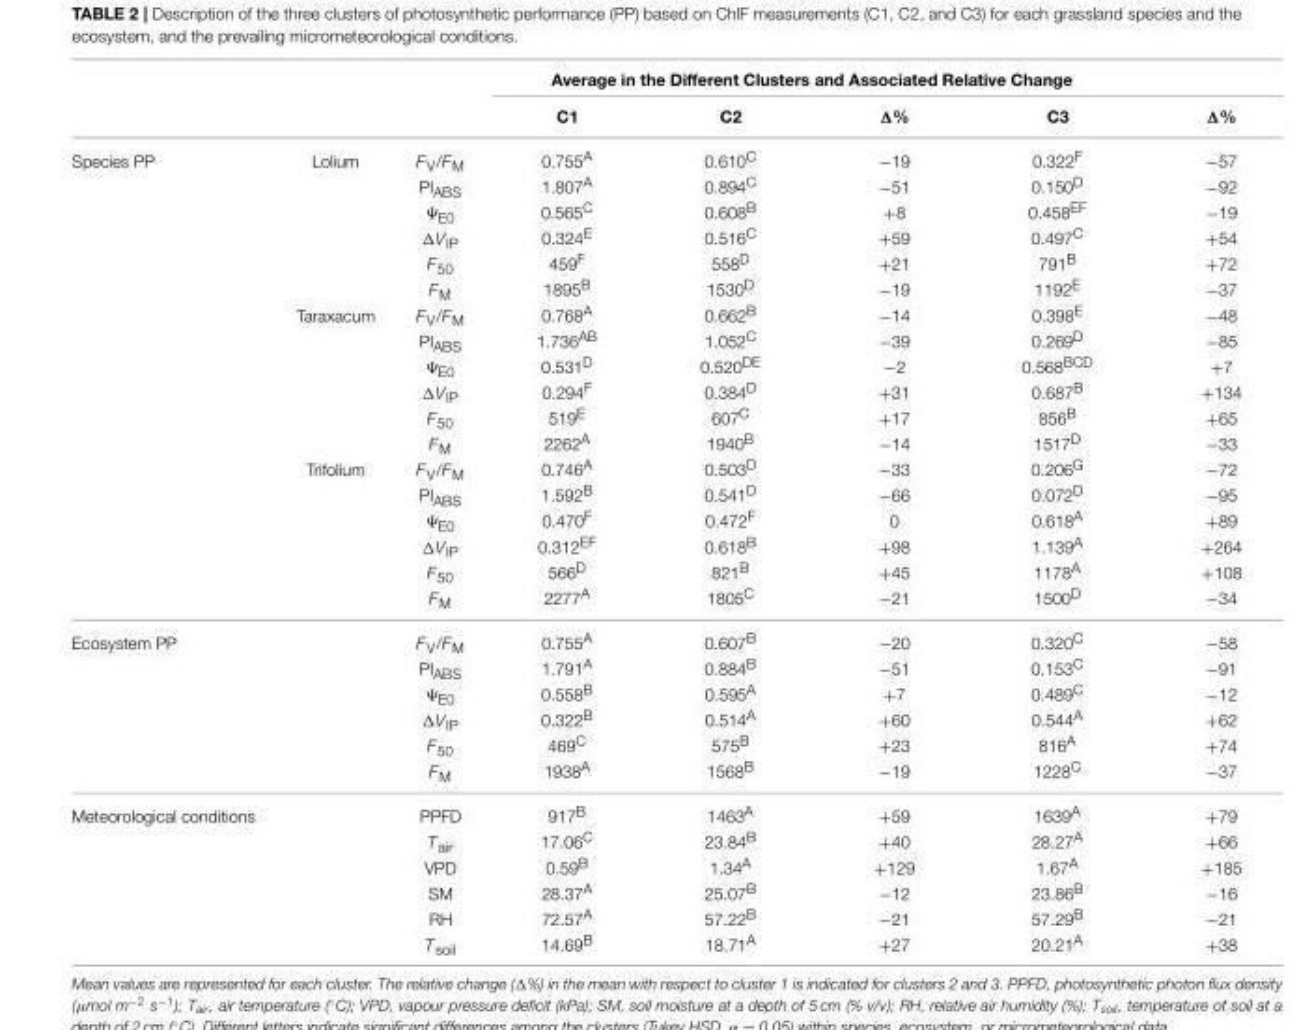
<table><thead><tr><td rowspan="2"></td><td rowspan="2"></td><td rowspan="2"></td><td colspan="4">Average in the Different Clusters and Associated Relative Change</td><td rowspan="2">Δ%</td></tr><tr><td>C1</td><td>C2</td><td>Δ%</td><td>C3</td></tr></thead><tbody><tr><td rowspan="18">Species PP</td><td>Lolium</td><td>F<sub>V</sub>/F<sub>M</sub></td><td>0.755<sup>A</sup></td><td>0.610<sup>C</sup></td><td>−19</td><td>0.322<sup>F</sup></td><td>−57</td></tr><tr><td></td><td>PI<sub>ABS</sub></td><td>1.807<sup>A</sup></td><td>0.894<sup>C</sup></td><td>−51</td><td>0.150<sup>D</sup></td><td>−92</td></tr><tr><td></td><td>Ψ<sub>E0</sub></td><td>0.565<sup>C</sup></td><td>0.608<sup>B</sup></td><td>+8</td><td>0.458<sup>EF</sup></td><td>−19</td></tr><tr><td></td><td>ΔV<sub>IP</sub></td><td>0.324<sup>E</sup></td><td>0.516<sup>C</sup></td><td>+59</td><td>0.497<sup>C</sup></td><td>+54</td></tr><tr><td></td><td>F<sub>50</sub></td><td>459<sup>F</sup></td><td>558<sup>D</sup></td><td>+21</td><td>791<sup>B</sup></td><td>+72</td></tr><tr><td></td><td>F<sub>M</sub></td><td>1895<sup>B</sup></td><td>1530<sup>D</sup></td><td>−19</td><td>1192<sup>E</sup></td><td>−37</td></tr><tr><td>Taraxacum</td><td>F<sub>V</sub>/F<sub>M</sub></td><td>0.768<sup>A</sup></td><td>0.662<sup>B</sup></td><td>−14</td><td>0.398<sup>E</sup></td><td>−48</td></tr><tr><td></td><td>PI<sub>ABS</sub></td><td>1.736<sup>AB</sup></td><td>1.052<sup>C</sup></td><td>−39</td><td>0.269<sup>D</sup></td><td>−85</td></tr><tr><td></td><td>Ψ<sub>E0</sub></td><td>0.531<sup>D</sup></td><td>0.520<sup>DE</sup></td><td>−2</td><td>0.568<sup>BCD</sup></td><td>+7</td></tr><tr><td></td><td>ΔV<sub>IP</sub></td><td>0.294<sup>F</sup></td><td>0.384<sup>D</sup></td><td>+31</td><td>0.687<sup>B</sup></td><td>+134</td></tr><tr><td></td><td>F<sub>50</sub></td><td>519<sup>E</sup></td><td>607<sup>C</sup></td><td>+17</td><td>856<sup>B</sup></td><td>+65</td></tr><tr><td></td><td>F<sub>M</sub></td><td>2262<sup>A</sup></td><td>1940<sup>B</sup></td><td>−14</td><td>1517<sup>D</sup></td><td>−33</td></tr><tr><td>Trifolium</td><td>F<sub>V</sub>/F<sub>M</sub></td><td>0.746<sup>A</sup></td><td>0.503<sup>D</sup></td><td>−33</td><td>0.206<sup>G</sup></td><td>−72</td></tr><tr><td></td><td>PI<sub>ABS</sub></td><td>1.592<sup>B</sup></td><td>0.541<sup>D</sup></td><td>−66</td><td>0.072<sup>D</sup></td><td>−95</td></tr><tr><td></td><td>Ψ<sub>E0</sub></td><td>0.470<sup>F</sup></td><td>0.472<sup>F</sup></td><td>0</td><td>0.618<sup>A</sup></td><td>+89</td></tr><tr><td></td><td>ΔV<sub>IP</sub></td><td>0.312<sup>EF</sup></td><td>0.618<sup>B</sup></td><td>+98</td><td>1.139<sup>A</sup></td><td>+264</td></tr><tr><td></td><td>F<sub>50</sub></td><td>566<sup>D</sup></td><td>821<sup>B</sup></td><td>+45</td><td>1178<sup>A</sup></td><td>+108</td></tr><tr><td></td><td>F<sub>M</sub></td><td>2277<sup>A</sup></td><td>1805<sup>C</sup></td><td>−21</td><td>1500<sup>D</sup></td><td>−34</td></tr><tr><td rowspan="6">Ecosystem PP</td><td></td><td>F<sub>V</sub>/F<sub>M</sub></td><td>0.755<sup>A</sup></td><td>0.607<sup>B</sup></td><td>−20</td><td>0.320<sup>C</sup></td><td>−58</td></tr><tr><td></td><td>PI<sub>ABS</sub></td><td>1.791<sup>A</sup></td><td>0.884<sup>B</sup></td><td>−51</td><td>0.153<sup>C</sup></td><td>−91</td></tr><tr><td></td><td>Ψ<sub>E0</sub></td><td>0.558<sup>B</sup></td><td>0.595<sup>A</sup></td><td>+7</td><td>0.489<sup>C</sup></td><td>−12</td></tr><tr><td></td><td>ΔV<sub>IP</sub></td><td>0.322<sup>B</sup></td><td>0.514<sup>A</sup></td><td>+60</td><td>0.544<sup>A</sup></td><td>+62</td></tr><tr><td></td><td>F<sub>50</sub></td><td>469<sup>C</sup></td><td>575<sup>B</sup></td><td>+23</td><td>816<sup>A</sup></td><td>+74</td></tr><tr><td></td><td>F<sub>M</sub></td><td>1938<sup>A</sup></td><td>1568<sup>B</sup></td><td>−19</td><td>1228<sup>C</sup></td><td>−37</td></tr><tr><td rowspan="6">Meteorological conditions</td><td></td><td>PPFD</td><td>917<sup>B</sup></td><td>1463<sup>A</sup></td><td>+59</td><td>1639<sup>A</sup></td><td>+79</td></tr><tr><td></td><td>T<sub>air</sub></td><td>17.06<sup>C</sup></td><td>23.84<sup>B</sup></td><td>+40</td><td>28.27<sup>A</sup></td><td>+66</td></tr><tr><td></td><td>VPD</td><td>0.59<sup>B</sup></td><td>1.34<sup>A</sup></td><td>+129</td><td>1.67<sup>A</sup></td><td>+185</td></tr><tr><td></td><td>SM</td><td>28.37<sup>A</sup></td><td>25.07<sup>B</sup></td><td>−12</td><td>23.86<sup>B</sup></td><td>−16</td></tr><tr><td></td><td>RH</td><td>72.57<sup>A</sup></td><td>57.22<sup>B</sup></td><td>−21</td><td>57.29<sup>B</sup></td><td>−21</td></tr><tr><td></td><td>T<sub>soil</sub></td><td>14.69<sup>B</sup></td><td>18.71<sup>A</sup></td><td>+27</td><td>20.21<sup>A</sup></td><td>+38</td></tr></tbody></table>